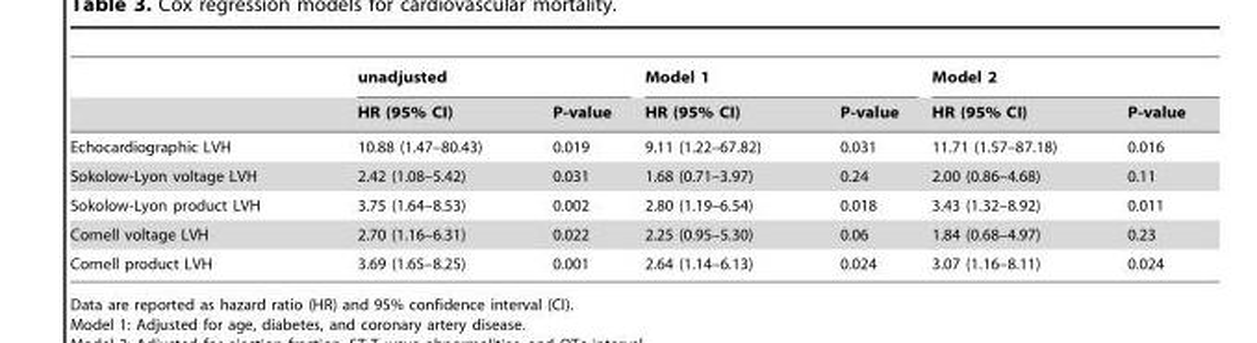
<table><thead><tr><td rowspan="2"></td><td colspan="2">unadjusted</td><td colspan="2">Model 1</td><td colspan="2">Model 2</td></tr><tr><td>HR (95% CI)</td><td>P-value</td><td>HR (95% CI)</td><td>P-value</td><td>HR (95% CI)</td><td>P-value</td></tr></thead><tbody><tr><td>Echocardiographic LVH</td><td>10.88 (1.47–80.43)</td><td>0.019</td><td>9.11 (1.22–67.82)</td><td>0.031</td><td>11.71 (1.57–87.18)</td><td>0.016</td></tr><tr><td>Sokolow-Lyon voltage LVH</td><td>2.42 (1.08–5.42)</td><td>0.031</td><td>1.68 (0.71–3.97)</td><td>0.24</td><td>2.00 (0.86–4.68)</td><td>0.11</td></tr><tr><td>Sokolow-Lyon product LVH</td><td>3.75 (1.64–8.53)</td><td>0.002</td><td>2.80 (1.19–6.54)</td><td>0.018</td><td>3.43 (1.32–8.92)</td><td>0.011</td></tr><tr><td>Cornell voltage LVH</td><td>2.70 (1.16–6.31)</td><td>0.022</td><td>2.25 (0.95–5.30)</td><td>0.06</td><td>1.84 (0.68–4.97)</td><td>0.23</td></tr><tr><td>Cornell product LVH</td><td>3.69 (1.65–8.25)</td><td>0.001</td><td>2.64 (1.14–6.13)</td><td>0.024</td><td>3.07 (1.16–8.11)</td><td>0.024</td></tr></tbody></table>